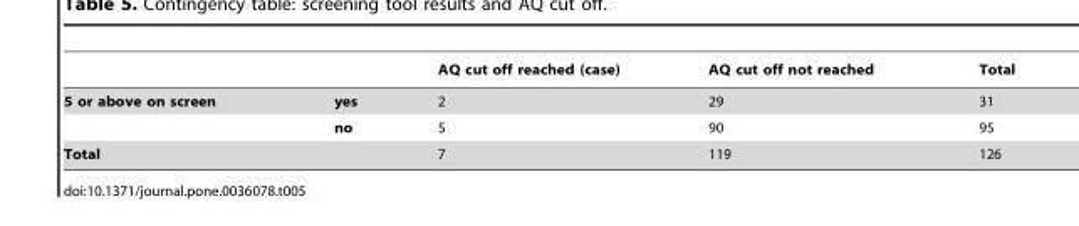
<table><thead><tr><td></td><td></td><td>AQ cut off reached (case)</td><td>AQ cut off not reached</td><td>Total</td></tr></thead><tbody><tr><td rowspan="2">5 or above on screen</td><td>yes</td><td>2</td><td>29</td><td>31</td></tr><tr><td>no</td><td>5</td><td>90</td><td>95</td></tr><tr><td colspan="2">Total</td><td>7</td><td>119</td><td>126</td></tr></tbody></table>